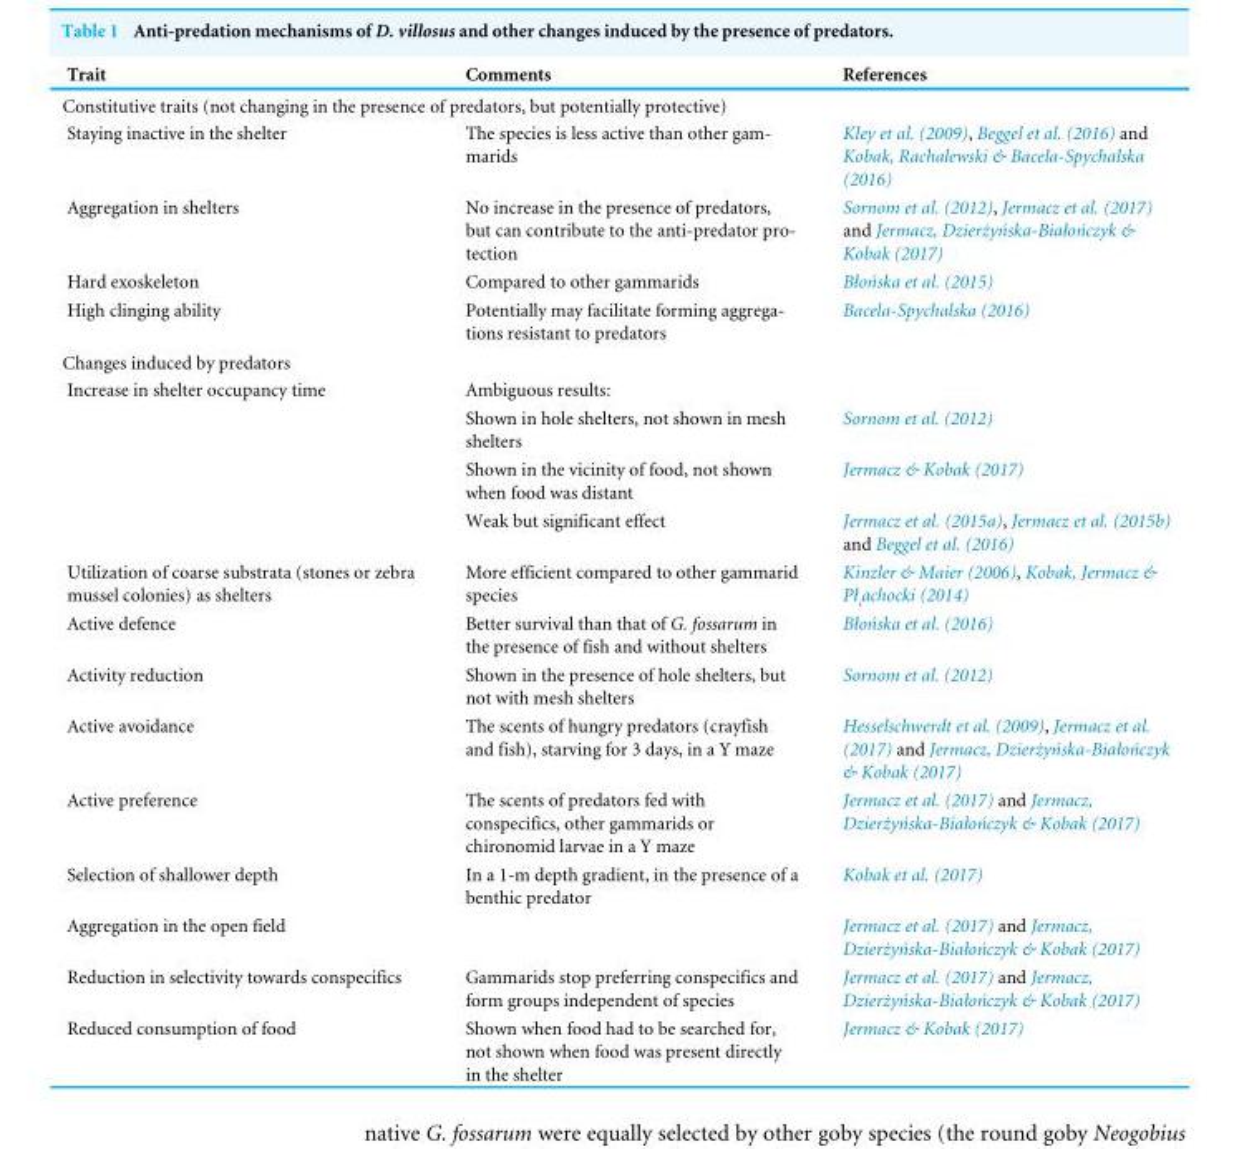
<table><thead><tr><td>Trait</td><td>Comments</td><td>References</td></tr></thead><tbody><tr><td colspan="3">Constitutive traits (not changing in the presence of predators, but potentially protective)</td></tr><tr><td>Staying inactive in the shelter</td><td>The species is less active than other gam- marids</td><td>Kley et al. (2009), Beggel et al. (2016) and Kobak, Rachalewski &amp; Bacela-Spychalska (2016)</td></tr><tr><td>Aggregation in shelters</td><td>No increase in the presence of predators, but can contribute to the anti-predator pro- tection</td><td>Sornom et al. (2012), Jermacz et al. (2017) and Jermacz, Dzierżyńska-Białończyk &amp; Kobak (2017)</td></tr><tr><td>Hard exoskeleton</td><td>Compared to other gammarids</td><td>Błońska et al. (2015)</td></tr><tr><td>High clinging ability</td><td>Potentially may facilitate forming aggrega- tions resistant to predators</td><td>Bacela-Spychalska (2016)</td></tr><tr><td colspan="3">Changes induced by predators</td></tr><tr><td rowspan="4">Increase in shelter occupancy time</td><td>Ambiguous results:</td><td></td></tr><tr><td>Shown in hole shelters, not shown in mesh shelters</td><td>Sornom et al. (2012)</td></tr><tr><td>Shown in the vicinity of food, not shown when food was distant</td><td>Jermacz &amp; Kobak (2017)</td></tr><tr><td>Weak but significant effect</td><td>Jermacz et al. (2015a), Jermacz et al. (2015b) and Beggel et al. (2016)</td></tr><tr><td>Utilization of coarse substrata (stones or zebra mussel colonies) as shelters</td><td>More efficient compared to other gammarid species</td><td>Kinzler &amp; Maier (2006), Kobak, Jermacz &amp; Płąchocki (2014)</td></tr><tr><td>Active defence</td><td>Better survival than that of G. fossarum in the presence of fish and without shelters</td><td>Błońska et al. (2016)</td></tr><tr><td>Activity reduction</td><td>Shown in the presence of hole shelters, but not with mesh shelters</td><td>Sornom et al. (2012)</td></tr><tr><td>Active avoidance</td><td>The scents of hungry predators (crayfish and fish), starving for 3 days, in a Y maze</td><td>Hesselschwerdt et al. (2009), Jermacz et al. (2017) and Jermacz, Dzierżyńska-Białończyk &amp; Kobak (2017)</td></tr><tr><td>Active preference</td><td>The scents of predators fed with conspecifics, other gammarids or chironomid larvae in a Y maze</td><td>Jermacz et al. (2017) and Jermacz, Dzierżyńska-Białończyk &amp; Kobak (2017)</td></tr><tr><td>Selection of shallower depth</td><td>In a 1-m depth gradient, in the presence of a benthic predator</td><td>Kobak et al. (2017)</td></tr><tr><td>Aggregation in the open field</td><td></td><td>Jermacz et al. (2017) and Jermacz, Dzierżyńska-Białończyk &amp; Kobak (2017)</td></tr><tr><td>Reduction in selectivity towards conspecifics</td><td>Gammarids stop preferring conspecifics and form groups independent of species</td><td>Jermacz et al. (2017) and Jermacz, Dzierżyńska-Białończyk &amp; Kobak (2017)</td></tr><tr><td>Reduced consumption of food</td><td>Shown when food had to be searched for, not shown when food was present directly in the shelter</td><td>Jermacz &amp; Kobak (2017)</td></tr></tbody></table>